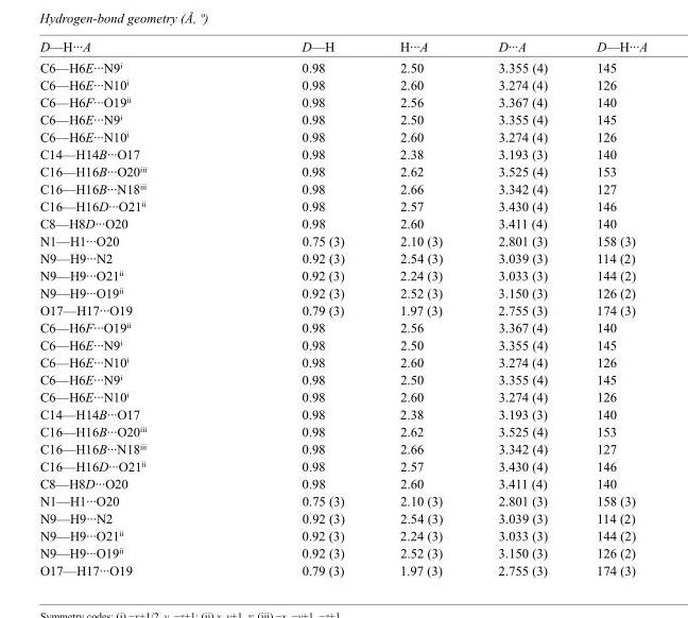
<table><tbody><tr><td>D—H···A</td><td>D—H</td><td>H···A</td><td>D···A</td><td>D—H···A</td></tr><tr><td>C6—H6E···N9<sup>i</sup></td><td>0.98</td><td>2.50</td><td>3.355 (4)</td><td>145</td></tr><tr><td>C6—H6E···N10<sup>i</sup></td><td>0.98</td><td>2.60</td><td>3.274 (4)</td><td>126</td></tr><tr><td>C6—H6F···O19<sup>ii</sup></td><td>0.98</td><td>2.56</td><td>3.367 (4)</td><td>140</td></tr><tr><td>C6—H6E···N9<sup>i</sup></td><td>0.98</td><td>2.50</td><td>3.355 (4)</td><td>145</td></tr><tr><td>C6—H6E···N10<sup>i</sup></td><td>0.98</td><td>2.60</td><td>3.274 (4)</td><td>126</td></tr><tr><td>C14—H14B···O17</td><td>0.98</td><td>2.38</td><td>3.193 (3)</td><td>140</td></tr><tr><td>C16—H16B···O20<sup>iii</sup></td><td>0.98</td><td>2.62</td><td>3.525 (4)</td><td>153</td></tr><tr><td>C16—H16B···N18<sup>iii</sup></td><td>0.98</td><td>2.66</td><td>3.342 (4)</td><td>127</td></tr><tr><td>C16—H16D···O21<sup>ii</sup></td><td>0.98</td><td>2.57</td><td>3.430 (4)</td><td>146</td></tr><tr><td>C8—H8D···O20</td><td>0.98</td><td>2.60</td><td>3.411 (4)</td><td>140</td></tr><tr><td>N1—H1···O20</td><td>0.75 (3)</td><td>2.10 (3)</td><td>2.801 (3)</td><td>158 (3)</td></tr><tr><td>N9—H9···N2</td><td>0.92 (3)</td><td>2.54 (3)</td><td>3.039 (3)</td><td>114 (2)</td></tr><tr><td>N9—H9···O21<sup>ii</sup></td><td>0.92 (3)</td><td>2.24 (3)</td><td>3.033 (3)</td><td>144 (2)</td></tr><tr><td>N9—H9···O19<sup>ii</sup></td><td>0.92 (3)</td><td>2.52 (3)</td><td>3.150 (3)</td><td>126 (2)</td></tr><tr><td>O17—H17···O19</td><td>0.79 (3)</td><td>1.97 (3)</td><td>2.755 (3)</td><td>174 (3)</td></tr><tr><td>C6—H6F···O19<sup>ii</sup></td><td>0.98</td><td>2.56</td><td>3.367 (4)</td><td>140</td></tr><tr><td>C6—H6E···N9<sup>i</sup></td><td>0.98</td><td>2.50</td><td>3.355 (4)</td><td>145</td></tr><tr><td>C6—H6E···N10<sup>i</sup></td><td>0.98</td><td>2.60</td><td>3.274 (4)</td><td>126</td></tr><tr><td>C6—H6E···N9<sup>i</sup></td><td>0.98</td><td>2.50</td><td>3.355 (4)</td><td>145</td></tr><tr><td>C6—H6E···N10<sup>i</sup></td><td>0.98</td><td>2.60</td><td>3.274 (4)</td><td>126</td></tr><tr><td>C14—H14B···O17</td><td>0.98</td><td>2.38</td><td>3.193 (3)</td><td>140</td></tr><tr><td>C16—H16B···O20<sup>iii</sup></td><td>0.98</td><td>2.62</td><td>3.525 (4)</td><td>153</td></tr><tr><td>C16—H16B···N18<sup>iii</sup></td><td>0.98</td><td>2.66</td><td>3.342 (4)</td><td>127</td></tr><tr><td>C16—H16D···O21<sup>ii</sup></td><td>0.98</td><td>2.57</td><td>3.430 (4)</td><td>146</td></tr><tr><td>C8—H8D···O20</td><td>0.98</td><td>2.60</td><td>3.411 (4)</td><td>140</td></tr><tr><td>N1—H1···O20</td><td>0.75 (3)</td><td>2.10 (3)</td><td>2.801 (3)</td><td>158 (3)</td></tr><tr><td>N9—H9···N2</td><td>0.92 (3)</td><td>2.54 (3)</td><td>3.039 (3)</td><td>114 (2)</td></tr><tr><td>N9—H9···O21<sup>ii</sup></td><td>0.92 (3)</td><td>2.24 (3)</td><td>3.033 (3)</td><td>144 (2)</td></tr><tr><td>N9—H9···O19<sup>ii</sup></td><td>0.92 (3)</td><td>2.52 (3)</td><td>3.150 (3)</td><td>126 (2)</td></tr><tr><td>O17—H17···O19</td><td>0.79 (3)</td><td>1.97 (3)</td><td>2.755 (3)</td><td>174 (3)</td></tr></tbody></table>